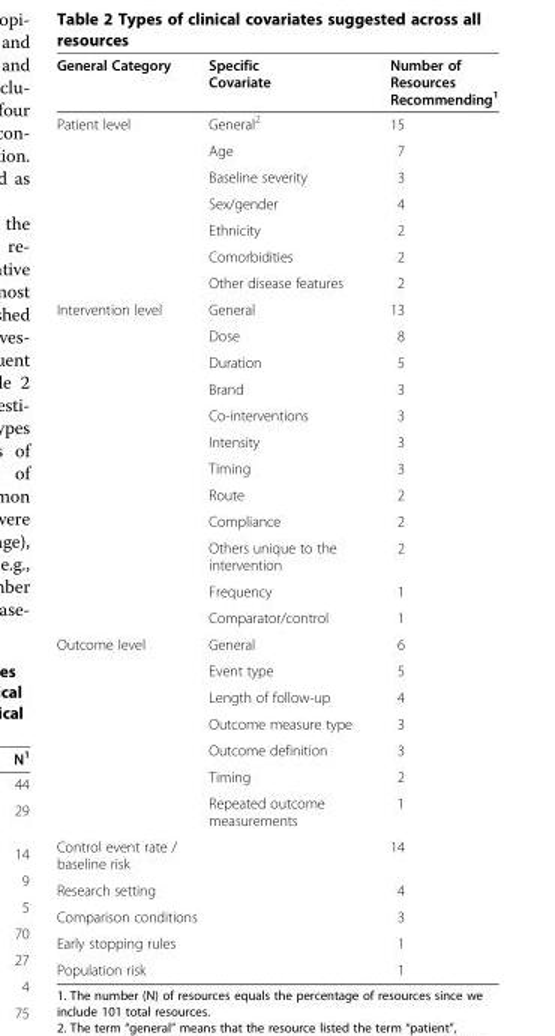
<table><thead><tr><td>General Category</td><td>Specific Covariate</td><td>Number of Resources Recommending<sup>1</sup></td></tr></thead><tbody><tr><td rowspan="7">Patient level</td><td>General<sup>2</sup></td><td>15</td></tr><tr><td>Age</td><td>7</td></tr><tr><td>Baseline severity</td><td>3</td></tr><tr><td>Sex/gender</td><td>4</td></tr><tr><td>Ethnicity</td><td>2</td></tr><tr><td>Comorbidities</td><td>2</td></tr><tr><td>Other disease features</td><td>2</td></tr><tr><td rowspan="12">Intervention level</td><td>General</td><td>13</td></tr><tr><td>Dose</td><td>8</td></tr><tr><td>Duration</td><td>5</td></tr><tr><td>Brand</td><td>3</td></tr><tr><td>Co-interventions</td><td>3</td></tr><tr><td>Intensity</td><td>3</td></tr><tr><td>Timing</td><td>3</td></tr><tr><td>Route</td><td>2</td></tr><tr><td>Compliance</td><td>2</td></tr><tr><td>Others unique to the intervention</td><td>2</td></tr><tr><td>Frequency</td><td>1</td></tr><tr><td>Comparator/control</td><td>1</td></tr><tr><td rowspan="7">Outcome level</td><td>General</td><td>6</td></tr><tr><td>Event type</td><td>5</td></tr><tr><td>Length of follow-up</td><td>4</td></tr><tr><td>Outcome measure type</td><td>3</td></tr><tr><td>Outcome definition</td><td>3</td></tr><tr><td>Timing</td><td>2</td></tr><tr><td>Repeated outcome measurements</td><td>1</td></tr><tr><td colspan="2">Control event rate / baseline risk</td><td>14</td></tr><tr><td colspan="2">Research setting</td><td>4</td></tr><tr><td colspan="2">Comparison conditions</td><td>3</td></tr><tr><td colspan="2">Early stopping rules</td><td>1</td></tr><tr><td colspan="2">Population risk</td><td>1</td></tr></tbody></table>